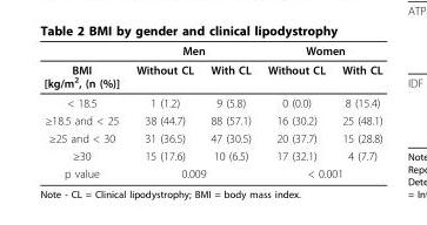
<table><thead><tr><td rowspan="2">BMI [kg/m<sup>2</sup>, (n (%)]</td><td colspan="2">Men</td><td colspan="2">Women</td></tr><tr><td>Without CL</td><td>With CL</td><td>Without CL</td><td>With CL</td></tr></thead><tbody><tr><td>&lt; 18.5</td><td>1 (1.2)</td><td>9 (5.8)</td><td>0 (0.0)</td><td>8 (15.4)</td></tr><tr><td>≥18.5 and &lt; 25</td><td>38 (44.7)</td><td>88 (57.1)</td><td>16 (30.2)</td><td>25 (48.1)</td></tr><tr><td>≥25 and &lt; 30</td><td>31 (36.5)</td><td>47 (30.5)</td><td>20 (37.7)</td><td>15 (28.8)</td></tr><tr><td>≥30</td><td>15 (17.6)</td><td>10 (6.5)</td><td>17 (32.1)</td><td>4 (7.7)</td></tr><tr><td>p value</td><td colspan="2">0.009</td><td colspan="2">&lt; 0.001</td></tr></tbody></table>